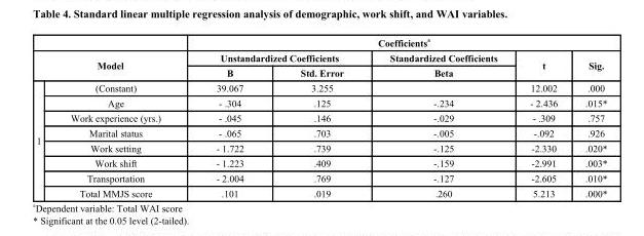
<table><thead><tr><td></td><td></td><td colspan="5">Coefficients <sup>a</sup></td></tr><tr><td rowspan="2" colspan="2">Model</td><td colspan="2">Unstandardized Coefficients</td><td rowspan="2">Standardized Coefficients Beta</td><td rowspan="2">t</td><td rowspan="2">Sig.</td></tr><tr><td>B</td><td>Std. Error</td></tr></thead><tbody><tr><td rowspan="8">1</td><td>(Constant)</td><td>39.067</td><td>3.255</td><td></td><td>12.002</td><td>.000</td></tr><tr><td>Age</td><td>- .304</td><td>.125</td><td>-.234</td><td>- 2.436</td><td>.015*</td></tr><tr><td>Work experience (yrs.)</td><td>- .045</td><td>.146</td><td>-.029</td><td>- .309</td><td>.757</td></tr><tr><td>Marital status</td><td>- .065</td><td>.703</td><td>-.005</td><td>-.092</td><td>.926</td></tr><tr><td>Work setting</td><td>- 1.722</td><td>.739</td><td>-.125</td><td>-2.330</td><td>.020*</td></tr><tr><td>Work shift</td><td>- 1.223</td><td>.409</td><td>-.159</td><td>-2.991</td><td>.003*</td></tr><tr><td>Transportation</td><td>- 2.004</td><td>.769</td><td>-.127</td><td>-2.605</td><td>.010*</td></tr><tr><td>Total MMJS score</td><td>.101</td><td>.019</td><td>.260</td><td>5.213</td><td>.000*</td></tr></tbody></table>